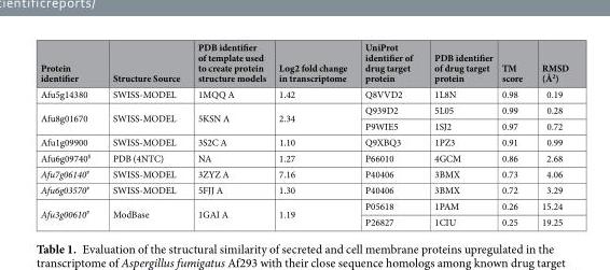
<table><thead><tr><td>Protein identifier</td><td>Structure Source</td><td>PDB identifier of template used to create protein structure models</td><td>Log2 fold change in transcriptome</td><td>UniProt identifier of drug target protein</td><td>PDB identifier of drug target protein</td><td>TM score</td><td>RMSD (Å<sup>2</sup>)</td></tr></thead><tbody><tr><td>Afu5g14380</td><td>SWISS-MODEL</td><td>1MQQ A</td><td>1.42</td><td>Q8VVD2</td><td>1L8N</td><td>0.98</td><td>0.19</td></tr><tr><td rowspan="2">Afu8g01670</td><td rowspan="2">SWISS-MODEL</td><td rowspan="2">5KSN A</td><td rowspan="2">2.34</td><td>Q939D2</td><td>5L05</td><td>0.99</td><td>0.28</td></tr><tr><td>P9WIE5</td><td>1SJ2</td><td>0.97</td><td>0.72</td></tr><tr><td>Afu1g09900</td><td>SWISS-MODEL</td><td>3S2C A</td><td>1.10</td><td>Q9XBQ3</td><td>1PZ3</td><td>0.91</td><td>0.99</td></tr><tr><td>Afu6g09740<sup>$</sup></td><td>PDB (4NTC)</td><td>NA</td><td>1.27</td><td>P66010</td><td>4GCM</td><td>0.86</td><td>2.68</td></tr><tr><td>Afu7g06140<sup>#</sup></td><td>SWISS-MODEL</td><td>3ZYZ A</td><td>7.16</td><td>P40406</td><td>3BMX</td><td>0.73</td><td>4.06</td></tr><tr><td>Afu6g03570<sup>#</sup></td><td>SWISS-MODEL</td><td>5FJJ A</td><td>1.30</td><td>P40406</td><td>3BMX</td><td>0.72</td><td>3.29</td></tr><tr><td rowspan="2">Afu3g00610<sup>#</sup></td><td rowspan="2">ModBase</td><td rowspan="2">1GAI A</td><td rowspan="2">1.19</td><td>P05618</td><td>1PAM</td><td>0.26</td><td>15.24</td></tr><tr><td>P26827</td><td>1CIU</td><td>0.25</td><td>19.25</td></tr></tbody></table>